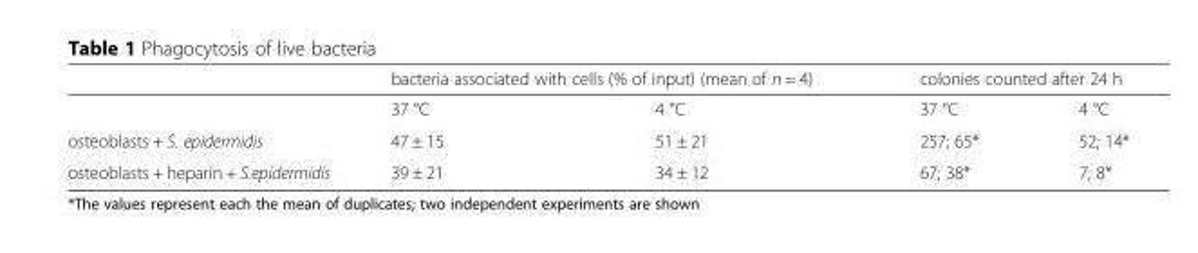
<table><thead><tr><td rowspan="2"></td><td colspan="2">bacteria associated with cells (% of input) (mean of n = 4)</td><td colspan="2">colonies counted after 24 h</td></tr><tr><td>37 °C</td><td>4 °C</td><td>37 °C</td><td>4 °C</td></tr></thead><tbody><tr><td>osteoblasts + S. epidermidis</td><td>47 ± 15</td><td>51 ± 21</td><td>257; 65*</td><td>52; 14*</td></tr><tr><td>osteoblasts + heparin + S.epidermidis</td><td>39 ± 21</td><td>34 ± 12</td><td>67; 38*</td><td>7; 8*</td></tr></tbody></table>